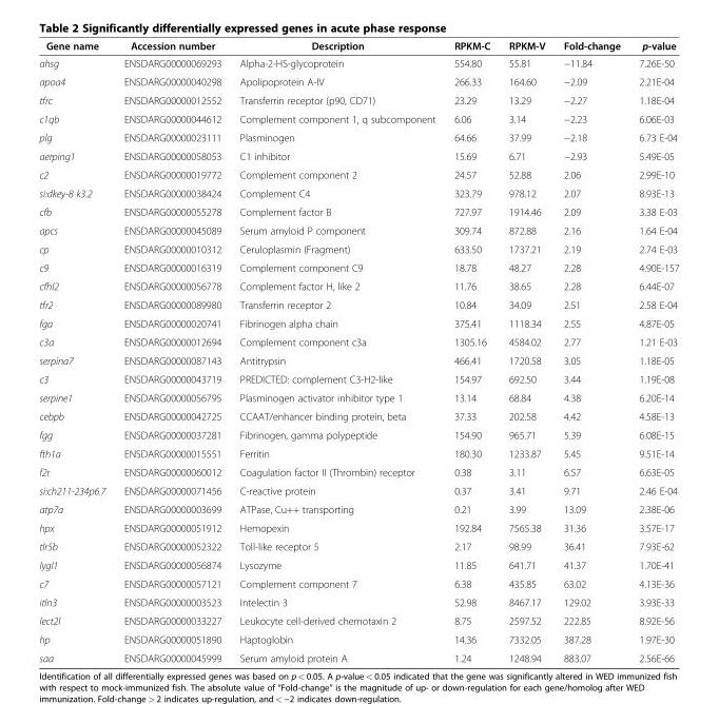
<table><thead><tr><td>Gene name</td><td>Accession number</td><td>Description</td><td>RPKM-C</td><td>RPKM-V</td><td>Fold-change</td><td>p-value</td></tr></thead><tbody><tr><td>ahsg</td><td>ENSDARG00000069293</td><td>Alpha-2-HS-glycoprotein</td><td>554.80</td><td>55.81</td><td>−11.84</td><td>7.26E-50</td></tr><tr><td>apoa4</td><td>ENSDARG00000040298</td><td>Apolipoprotein A-IV</td><td>266.33</td><td>164.60</td><td>−2.09</td><td>2.21E-04</td></tr><tr><td>tfrc</td><td>ENSDARG00000012552</td><td>Transferrin receptor (p90, CD71)</td><td>23.29</td><td>13.29</td><td>−2.27</td><td>1.18E-04</td></tr><tr><td>c1qb</td><td>ENSDARG00000044612</td><td>Complement component 1, q subcomponent</td><td>6.06</td><td>3.14</td><td>−2.23</td><td>6.06E-03</td></tr><tr><td>plg</td><td>ENSDARG00000023111</td><td>Plasminogen</td><td>64.66</td><td>37.99</td><td>−2.18</td><td>6.73 E-04</td></tr><tr><td>aerping1</td><td>ENSDARG00000058053</td><td>C1 inhibitor</td><td>15.69</td><td>6.71</td><td>−2.93</td><td>5.49E-05</td></tr><tr><td>c2</td><td>ENSDARG00000019772</td><td>Complement component 2</td><td>24.57</td><td>52.88</td><td>2.06</td><td>2.99E-10</td></tr><tr><td>si:dkey-8 k3.2</td><td>ENSDARG00000038424</td><td>Complement C4</td><td>323.79</td><td>978.12</td><td>2.07</td><td>8.93E-13</td></tr><tr><td>cfb</td><td>ENSDARG00000055278</td><td>Complement factor B</td><td>727.97</td><td>1914.46</td><td>2.09</td><td>3.38 E-03</td></tr><tr><td>apcs</td><td>ENSDARG00000045089</td><td>Serum amyloid P component</td><td>309.74</td><td>872.88</td><td>2.16</td><td>1.64 E-04</td></tr><tr><td>cp</td><td>ENSDARG00000010312</td><td>Ceruloplasmin (Fragment)</td><td>633.50</td><td>1737.21</td><td>2.19</td><td>2.74 E-03</td></tr><tr><td>c9</td><td>ENSDARG00000016319</td><td>Complement component C9</td><td>18.78</td><td>48.27</td><td>2.28</td><td>4.90E-157</td></tr><tr><td>cfhl2</td><td>ENSDARG00000056778</td><td>Complement factor H, like 2</td><td>11.76</td><td>38.65</td><td>2.28</td><td>6.44E-07</td></tr><tr><td>tfr2</td><td>ENSDARG00000089980</td><td>Transferrin receptor 2</td><td>10.84</td><td>34.09</td><td>2.51</td><td>2.58 E-04</td></tr><tr><td>fga</td><td>ENSDARG00000020741</td><td>Fibrinogen alpha chain</td><td>375.41</td><td>1118.34</td><td>2.55</td><td>4.87E-05</td></tr><tr><td>c3a</td><td>ENSDARG00000012694</td><td>Complement component c3a</td><td>1305.16</td><td>4584.02</td><td>2.77</td><td>1.21 E-03</td></tr><tr><td>serpina7</td><td>ENSDARG00000087143</td><td>Antitrypsin</td><td>466.41</td><td>1720.58</td><td>3.05</td><td>1.18E-05</td></tr><tr><td>c3</td><td>ENSDARG00000043719</td><td>PREDICTED: complement C3-H2-like</td><td>154.97</td><td>692.50</td><td>3.44</td><td>1.19E-08</td></tr><tr><td>serpine1</td><td>ENSDARG00000056795</td><td>Plasminogen activator inhibitor type 1</td><td>13.14</td><td>68.84</td><td>4.38</td><td>6.20E-14</td></tr><tr><td>cebpb</td><td>ENSDARG00000042725</td><td>CCAAT/enhancer binding protein, beta</td><td>37.33</td><td>202.58</td><td>4.42</td><td>4.58E-13</td></tr><tr><td>fgg</td><td>ENSDARG00000037281</td><td>Fibrinogen, gamma polypeptide</td><td>154.90</td><td>965.71</td><td>5.39</td><td>6.08E-15</td></tr><tr><td>fth1a</td><td>ENSDARG00000015551</td><td>Ferritin</td><td>180.30</td><td>1233.87</td><td>5.45</td><td>9.51E-14</td></tr><tr><td>f2r</td><td>ENSDARG00000060012</td><td>Coagulation factor II (Thrombin) receptor</td><td>0.38</td><td>3.11</td><td>6.57</td><td>6.63E-05</td></tr><tr><td>si:ch211-234p6.7</td><td>ENSDARG00000071456</td><td>C-reactive protein</td><td>0.37</td><td>3.41</td><td>9.71</td><td>2.46 E-04</td></tr><tr><td>atp7a</td><td>ENSDARG00000003699</td><td>ATPase, Cu++ transporting</td><td>0.21</td><td>3.99</td><td>13.09</td><td>2.38E-06</td></tr><tr><td>hpx</td><td>ENSDARG00000051912</td><td>Hemopexin</td><td>192.84</td><td>7565.38</td><td>31.36</td><td>3.57E-17</td></tr><tr><td>tlr5b</td><td>ENSDARG00000052322</td><td>Toll-like receptor 5</td><td>2.17</td><td>98.99</td><td>36.41</td><td>7.93E-62</td></tr><tr><td>lygl1</td><td>ENSDARG00000056874</td><td>Lysozyme</td><td>11.85</td><td>641.71</td><td>41.37</td><td>1.70E-41</td></tr><tr><td>c7</td><td>ENSDARG00000057121</td><td>Complement component 7</td><td>6.38</td><td>435.85</td><td>63.02</td><td>4.13E-36</td></tr><tr><td>itln3</td><td>ENSDARG00000003523</td><td>Intelectin 3</td><td>52.98</td><td>8467.17</td><td>129.02</td><td>3.93E-33</td></tr><tr><td>lect2l</td><td>ENSDARG00000033227</td><td>Leukocyte cell-derived chemotaxin 2</td><td>8.75</td><td>2597.52</td><td>222.85</td><td>8.92E-56</td></tr><tr><td>hp</td><td>ENSDARG00000051890</td><td>Haptoglobin</td><td>14.36</td><td>7332.05</td><td>387.28</td><td>1.97E-30</td></tr><tr><td>saa</td><td>ENSDARG00000045999</td><td>Serum amyloid protein A</td><td>1.24</td><td>1248.94</td><td>883.07</td><td>2.56E-66</td></tr></tbody></table>